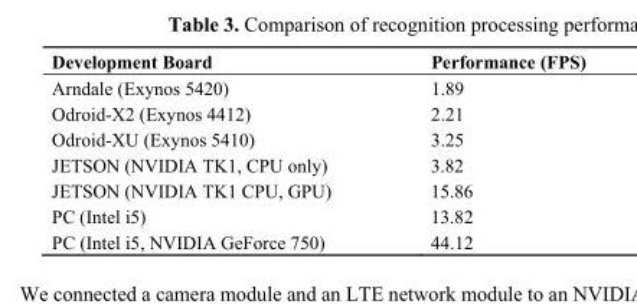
<table><thead><tr><td>Development Board</td><td>Performance (FPS)</td></tr></thead><tbody><tr><td>Arndale (Exynos 5420)</td><td>1.89</td></tr><tr><td>Odroid-X2 (Exynos 4412)</td><td>2.21</td></tr><tr><td>Odroid-XU (Exynos 5410)</td><td>3.25</td></tr><tr><td>JETSON (NVIDIA TK1, CPU only)</td><td>3.82</td></tr><tr><td>JETSON (NVIDIA TK1 CPU, GPU)</td><td>15.86</td></tr><tr><td>PC (Intel i5)</td><td>13.82</td></tr><tr><td>PC (Intel i5, NVIDIA GeForce 750)</td><td>44.12</td></tr></tbody></table>